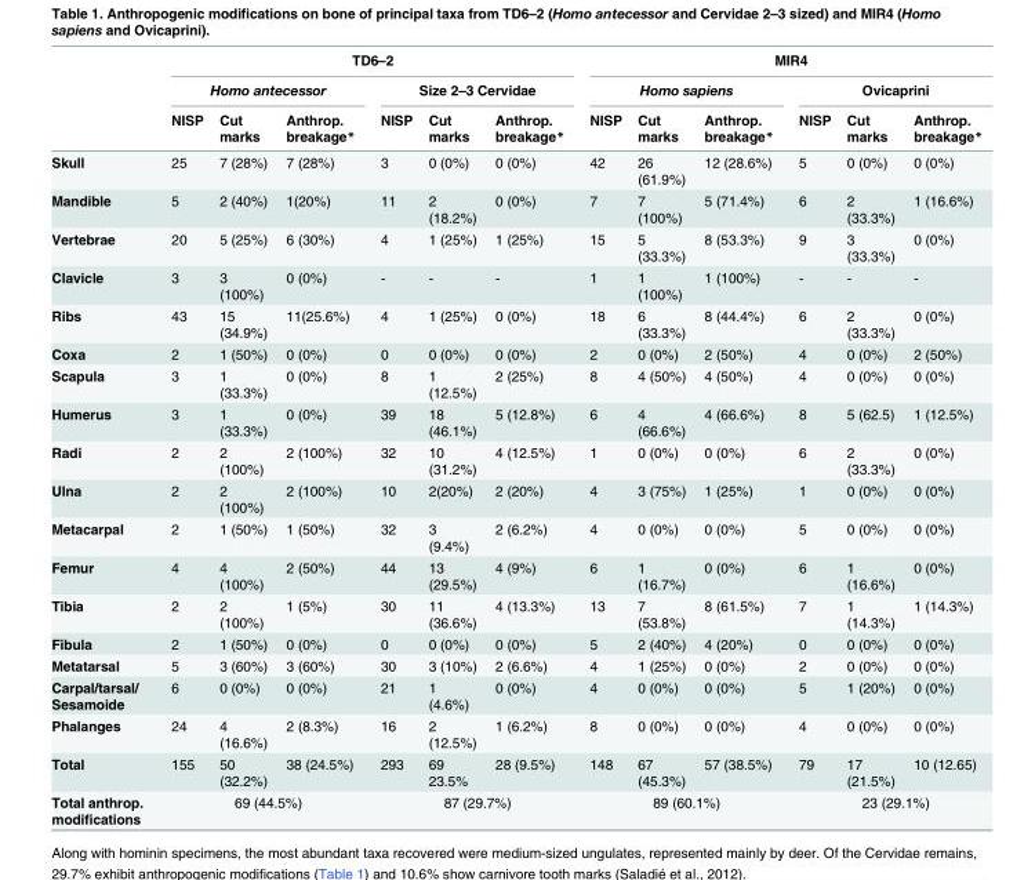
<table><thead><tr><td rowspan="3"></td><td colspan="6">TD6–2</td><td colspan="6">MIR4</td></tr><tr><td colspan="3">Homo antecessor</td><td colspan="3">Size 2–3 Cervidae</td><td colspan="3">Homo sapiens</td><td colspan="3">Ovicaprini</td></tr><tr><td>NISP</td><td>Cut marks</td><td>Anthrop. breakage*</td><td>NISP</td><td>Cut marks</td><td>Anthrop. breakage*</td><td>NISP</td><td>Cut marks</td><td>Anthrop. breakage*</td><td>NISP</td><td>Cut marks</td><td>Anthrop. breakage*</td></tr></thead><tbody><tr><td>Skull</td><td>25</td><td>7 (28%)</td><td>7 (28%)</td><td>3</td><td>0 (0%)</td><td>0 (0%)</td><td>42</td><td>26 (61.9%)</td><td>12 (28.6%)</td><td>5</td><td>0 (0%)</td><td>0 (0%)</td></tr><tr><td>Mandible</td><td>5</td><td>2 (40%)</td><td>1(20%)</td><td>11</td><td>2 (18.2%)</td><td>0 (0%)</td><td>7</td><td>7 (100%)</td><td>5 (71.4%)</td><td>6</td><td>2 (33.3%)</td><td>1 (16.6%)</td></tr><tr><td>Vertebrae</td><td>20</td><td>5 (25%)</td><td>6 (30%)</td><td>4</td><td>1 (25%)</td><td>1 (25%)</td><td>15</td><td>5 (33.3%)</td><td>8 (53.3%)</td><td>9</td><td>3 (33.3%)</td><td>0 (0%)</td></tr><tr><td>Clavicle</td><td>3</td><td>3 (100%)</td><td>0 (0%)</td><td>-</td><td>-</td><td>-</td><td>1</td><td>1 (100%)</td><td>1 (100%)</td><td>-</td><td>-</td><td>-</td></tr><tr><td>Ribs</td><td>43</td><td>15 (34.9%)</td><td>11(25.6%)</td><td>4</td><td>1 (25%)</td><td>0 (0%)</td><td>18</td><td>6 (33.3%)</td><td>8 (44.4%)</td><td>6</td><td>2 (33.3%)</td><td>0 (0%)</td></tr><tr><td>Coxa</td><td>2</td><td>1 (50%)</td><td>0 (0%)</td><td>0</td><td>0 (0%)</td><td>0 (0%)</td><td>2</td><td>0 (0%)</td><td>2 (50%)</td><td>4</td><td>0 (0%)</td><td>2 (50%)</td></tr><tr><td>Scapula</td><td>3</td><td>1 (33.3%)</td><td>0 (0%)</td><td>8</td><td>1 (12.5%)</td><td>2 (25%)</td><td>8</td><td>4 (50%)</td><td>4 (50%)</td><td>4</td><td>0 (0%)</td><td>0 (0%)</td></tr><tr><td>Humerus</td><td>3</td><td>1 (33.3%)</td><td>0 (0%)</td><td>39</td><td>18 (46.1%)</td><td>5 (12.8%)</td><td>6</td><td>4 (66.6%)</td><td>4 (66.6%)</td><td>8</td><td>5 (62.5)</td><td>1 (12.5%)</td></tr><tr><td>Radi</td><td>2</td><td>2 (100%)</td><td>2 (100%)</td><td>32</td><td>10 (31.2%)</td><td>4 (12.5%)</td><td>1</td><td>0 (0%)</td><td>0 (0%)</td><td>6</td><td>2 (33.3%)</td><td>0 (0%)</td></tr><tr><td>Ulna</td><td>2</td><td>2 (100%)</td><td>2 (100%)</td><td>10</td><td>2(20%)</td><td>2 (20%)</td><td>4</td><td>3 (75%)</td><td>1 (25%)</td><td>1</td><td>0 (0%)</td><td>0 (0%)</td></tr><tr><td>Metacarpal</td><td>2</td><td>1 (50%)</td><td>1 (50%)</td><td>32</td><td>3 (9.4%)</td><td>2 (6.2%)</td><td>4</td><td>0 (0%)</td><td>0 (0%)</td><td>5</td><td>0 (0%)</td><td>0 (0%)</td></tr><tr><td>Femur</td><td>4</td><td>4 (100%)</td><td>2 (50%)</td><td>44</td><td>13 (29.5%)</td><td>4 (9%)</td><td>6</td><td>1 (16.7%)</td><td>0 (0%)</td><td>6</td><td>1 (16.6%)</td><td>0 (0%)</td></tr><tr><td>Tibia</td><td>2</td><td>2 (100%)</td><td>1 (5%)</td><td>30</td><td>11 (36.6%)</td><td>4 (13.3%)</td><td>13</td><td>7 (53.8%)</td><td>8 (61.5%)</td><td>7</td><td>1 (14.3%)</td><td>1 (14.3%)</td></tr><tr><td>Fibula</td><td>2</td><td>1 (50%)</td><td>0 (0%)</td><td>0</td><td>0 (0%)</td><td>0 (0%)</td><td>5</td><td>2 (40%)</td><td>4 (20%)</td><td>0</td><td>0 (0%)</td><td>0 (0%)</td></tr><tr><td>Metatarsal</td><td>5</td><td>3 (60%)</td><td>3 (60%)</td><td>30</td><td>3 (10%)</td><td>2 (6.6%)</td><td>4</td><td>1 (25%)</td><td>0 (0%)</td><td>2</td><td>0 (0%)</td><td>0 (0%)</td></tr><tr><td>Carpal/tarsal/ Sesamoide</td><td>6</td><td>0 (0%)</td><td>0 (0%)</td><td>21</td><td>1 (4.6%)</td><td>0 (0%)</td><td>4</td><td>0 (0%)</td><td>0 (0%)</td><td>5</td><td>1 (20%)</td><td>0 (0%)</td></tr><tr><td>Phalanges</td><td>24</td><td>4 (16.6%)</td><td>2 (8.3%)</td><td>16</td><td>2 (12.5%)</td><td>1 (6.2%)</td><td>8</td><td>0 (0%)</td><td>0 (0%)</td><td>4</td><td>0 (0%)</td><td>0 (0%)</td></tr><tr><td>Total</td><td>155</td><td>50 (32.2%)</td><td>38 (24.5%)</td><td>293</td><td>69 23.5%</td><td>28 (9.5%)</td><td>148</td><td>67 (45.3%)</td><td>57 (38.5%)</td><td>79</td><td>17 (21.5%)</td><td>10 (12.65)</td></tr><tr><td>Total anthrop. modifications</td><td colspan="3">69 (44.5%)</td><td colspan="3">87 (29.7%)</td><td colspan="3">89 (60.1%)</td><td colspan="3">23 (29.1%)</td></tr></tbody></table>